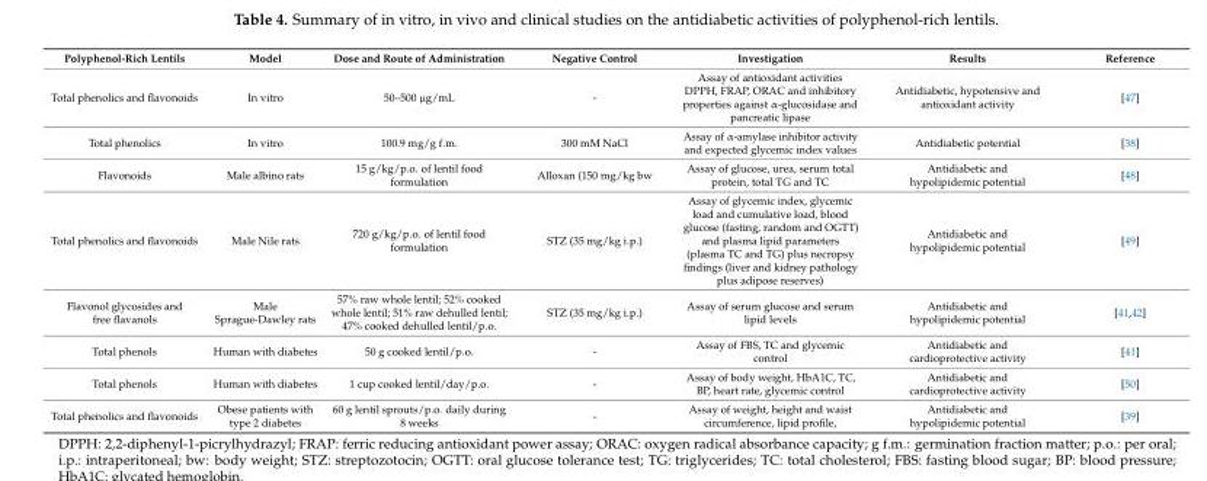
<table><thead><tr><td>Polyphenol-Rich Lentils</td><td>Model</td><td>Dose and Route of Administration</td><td>Negative Control</td><td>Investigation</td><td>Results</td><td>Reference</td></tr></thead><tbody><tr><td>Total phenolics and flavonoids</td><td>In vitro</td><td>50–500 µg/mL</td><td>-</td><td>Assay of antioxidant activities DPPH, FRAP, ORAC and inhibitory properties against α-glucosidase and pancreatic lipase</td><td>Antidiabetic, hypotensive and antioxidant activity</td><td>[47]</td></tr><tr><td>Total phenolics</td><td>In vitro</td><td>100.9 mg/g f.m.</td><td>300 mM NaCl</td><td>Assay of α-amylase inhibitor activity and expected glycemic index values</td><td>Antidiabetic potential</td><td>[38]</td></tr><tr><td>Flavonoids</td><td>Male albino rats</td><td>15 g/kg/p.o. of lentil food formulation</td><td>Alloxan (150 mg/kg bw</td><td>Assay of glucose, urea, serum total protein, total TG and TC</td><td>Antidiabetic and hypolipidemic potential</td><td>[48]</td></tr><tr><td>Total phenolics and flavonoids</td><td>Male Nile rats</td><td>720 g/kg/p.o. of lentil food formulation</td><td>STZ (35 mg/kg i.p.)</td><td>Assay of glycemic index, glycemic load and cumulative load, blood glucose (fasting, random and OGTT) and plasma lipid parameters (plasma TC and TG) plus necropsy findings (liver and kidney pathology plus adipose reserves)</td><td>Antidiabetic and hypolipidemic potential</td><td>[49]</td></tr><tr><td>Flavonol glycosides and free flavanols</td><td>Male Sprague-Dawley rats</td><td>57% raw whole lentil; 52% cooked whole lentil; 51% raw dehulled lentil; 47% cooked dehulled lentil/p.o.</td><td>STZ (35 mg/kg i.p.)</td><td>Assay of serum glucose and serum lipid levels</td><td>Antidiabetic and hypolipidemic potential</td><td>[41,42]</td></tr><tr><td>Total phenols</td><td>Human with diabetes</td><td>50 g cooked lentil/p.o.</td><td>-</td><td>Assay of FBS, TC and glycemic control</td><td>Antidiabetic and cardioprotective activity</td><td>[41]</td></tr><tr><td>Total phenols</td><td>Human with diabetes</td><td>1 cup cooked lentil/day/p.o.</td><td>-</td><td>Assay of body weight, HbA1C, TC, BP, heart rate, glycemic control</td><td>Antidiabetic and cardioprotective activity</td><td>[50]</td></tr><tr><td>Total phenolics and flavonoids</td><td>Obese patients with type 2 diabetes</td><td>60 g lentil sprouts/p.o. daily during 8 weeks</td><td>-</td><td>Assay of weight, height and waist circumference, lipid profile,</td><td>Antidiabetic and hypolipidemic potential</td><td>[39]</td></tr></tbody></table>